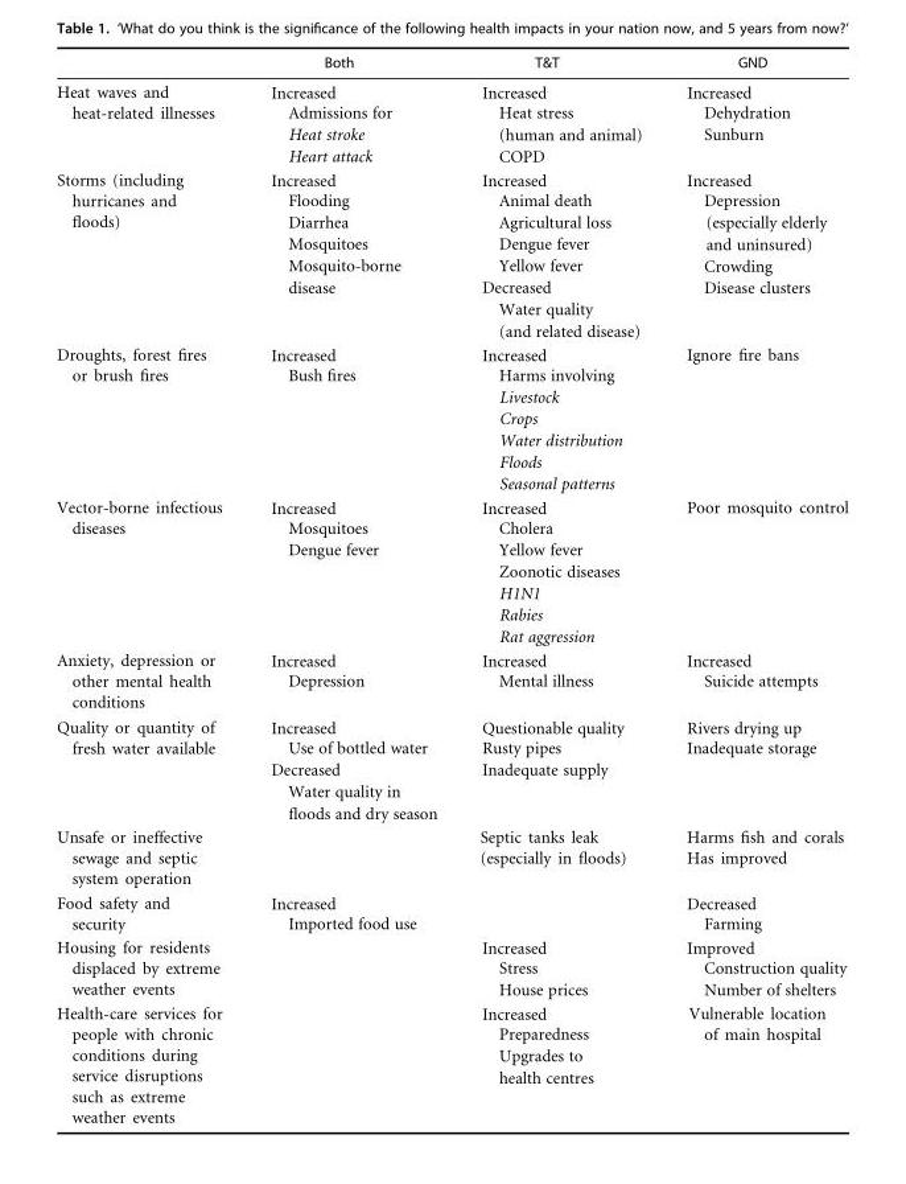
<table><thead><tr><td></td><td>Both</td><td>T&amp;T</td><td>GND</td></tr></thead><tbody><tr><td>Heat waves and heat-related illnesses</td><td>Increased Admissions for Heat stroke Heart attack</td><td>Increased Heat stress (human and animal) COPD</td><td>Increased Dehydration Sunburn</td></tr><tr><td>Storms (including hurricanes and floods)</td><td>Increased Flooding Diarrhea Mosquitoes Mosquito-borne disease</td><td>Increased Animal death Agricultural loss Dengue fever Yellow fever Decreased Water quality (and related disease)</td><td>Increased Depression (especially elderly and uninsured) Crowding Disease clusters</td></tr><tr><td>Droughts, forest fires or brush fires</td><td>Increased Bush fires</td><td>Increased Harms involving Livestock Crops Water distribution Floods Seasonal patterns</td><td>Ignore fire bans</td></tr><tr><td>Vector-borne infectious diseases</td><td>Increased Mosquitoes Dengue fever</td><td>Increased Cholera Yellow fever Zoonotic diseases H1N1 Rabies Rat aggression</td><td>Poor mosquito control</td></tr><tr><td>Anxiety, depression or other mental health conditions</td><td>Increased Depression</td><td>Increased Mental illness</td><td>Increased Suicide attempts</td></tr><tr><td>Quality or quantity of fresh water available</td><td>Increased Use of bottled water Decreased Water quality in floods and dry season</td><td>Questionable quality Rusty pipes Inadequate supply</td><td>Rivers drying up Inadequate storage</td></tr><tr><td>Unsafe or ineffective sewage and septic system operation</td><td></td><td>Septic tanks leak (especially in floods)</td><td>Harms fish and corals Has improved</td></tr><tr><td>Food safety and security</td><td>Increased Imported food use</td><td></td><td>Decreased Farming</td></tr><tr><td>Housing for residents displaced by extreme weather events</td><td></td><td>Increased Stress House prices</td><td>Improved Construction quality Number of shelters</td></tr><tr><td>Health-care services for people with chronic conditions during service disruptions such as extreme weather events</td><td></td><td>Increased Preparedness Upgrades to health centres</td><td>Vulnerable location of main hospital</td></tr></tbody></table>